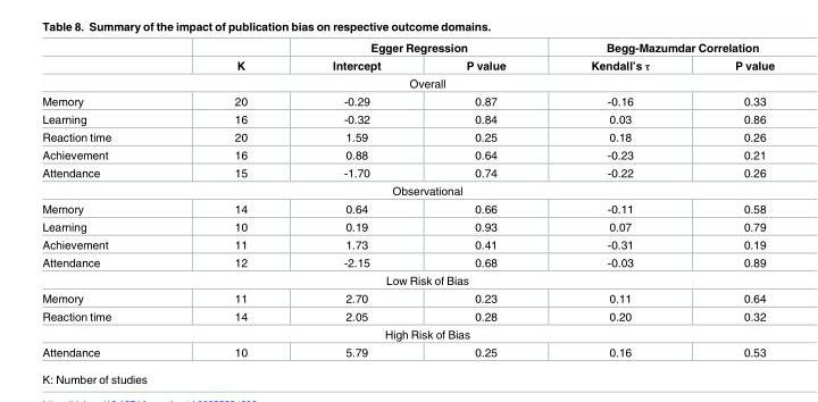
<table><thead><tr><td rowspan="2"></td><td rowspan="2">K</td><td colspan="2">Egger Regression</td><td colspan="2">Begg-Mazumdar Correlation</td></tr><tr><td>Intercept</td><td>P value</td><td>Kendall’s τ</td><td>P value</td></tr></thead><tbody><tr><td colspan="6">Overall</td></tr><tr><td>Memory</td><td>20</td><td>-0.29</td><td>0.87</td><td>-0.16</td><td>0.33</td></tr><tr><td>Learning</td><td>16</td><td>-0.32</td><td>0.84</td><td>0.03</td><td>0.86</td></tr><tr><td>Reaction time</td><td>20</td><td>1.59</td><td>0.25</td><td>0.18</td><td>0.26</td></tr><tr><td>Achievement</td><td>16</td><td>0.88</td><td>0.64</td><td>-0.23</td><td>0.21</td></tr><tr><td>Attendance</td><td>15</td><td>-1.70</td><td>0.74</td><td>-0.22</td><td>0.26</td></tr><tr><td colspan="6">Observational</td></tr><tr><td>Memory</td><td>14</td><td>0.64</td><td>0.66</td><td>-0.11</td><td>0.58</td></tr><tr><td>Learning</td><td>10</td><td>0.19</td><td>0.93</td><td>0.07</td><td>0.79</td></tr><tr><td>Achievement</td><td>11</td><td>1.73</td><td>0.41</td><td>-0.31</td><td>0.19</td></tr><tr><td>Attendance</td><td>12</td><td>-2.15</td><td>0.68</td><td>-0.03</td><td>0.89</td></tr><tr><td colspan="6">Low Risk of Bias</td></tr><tr><td>Memory</td><td>11</td><td>2.70</td><td>0.23</td><td>0.11</td><td>0.64</td></tr><tr><td>Reaction time</td><td>14</td><td>2.05</td><td>0.28</td><td>0.20</td><td>0.32</td></tr><tr><td colspan="6">High Risk of Bias</td></tr><tr><td>Attendance</td><td>10</td><td>5.79</td><td>0.25</td><td>0.16</td><td>0.53</td></tr></tbody></table>